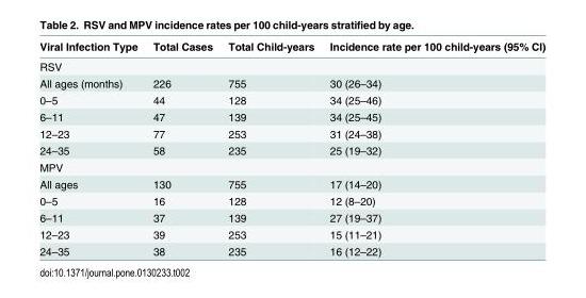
<table><thead><tr><td>Viral Infection Type</td><td>Total Cases</td><td>Total Child-years</td><td>Incidence rate per 100 child-years (95% CI)</td></tr></thead><tbody><tr><td colspan="4">RSV</td></tr><tr><td>All ages (months)</td><td>226</td><td>755</td><td>30 (26–34)</td></tr><tr><td>0–5</td><td>44</td><td>128</td><td>34 (25–46)</td></tr><tr><td>6–11</td><td>47</td><td>139</td><td>34 (25–45)</td></tr><tr><td>12–23</td><td>77</td><td>253</td><td>31 (24–38)</td></tr><tr><td>24–35</td><td>58</td><td>235</td><td>25 (19–32)</td></tr><tr><td colspan="4">MPV</td></tr><tr><td>All ages</td><td>130</td><td>755</td><td>17 (14–20)</td></tr><tr><td>0–5</td><td>16</td><td>128</td><td>12 (8–20)</td></tr><tr><td>6–11</td><td>37</td><td>139</td><td>27 (19–37)</td></tr><tr><td>12–23</td><td>39</td><td>253</td><td>15 (11–21)</td></tr><tr><td>24–35</td><td>38</td><td>235</td><td>16 (12–22)</td></tr></tbody></table>